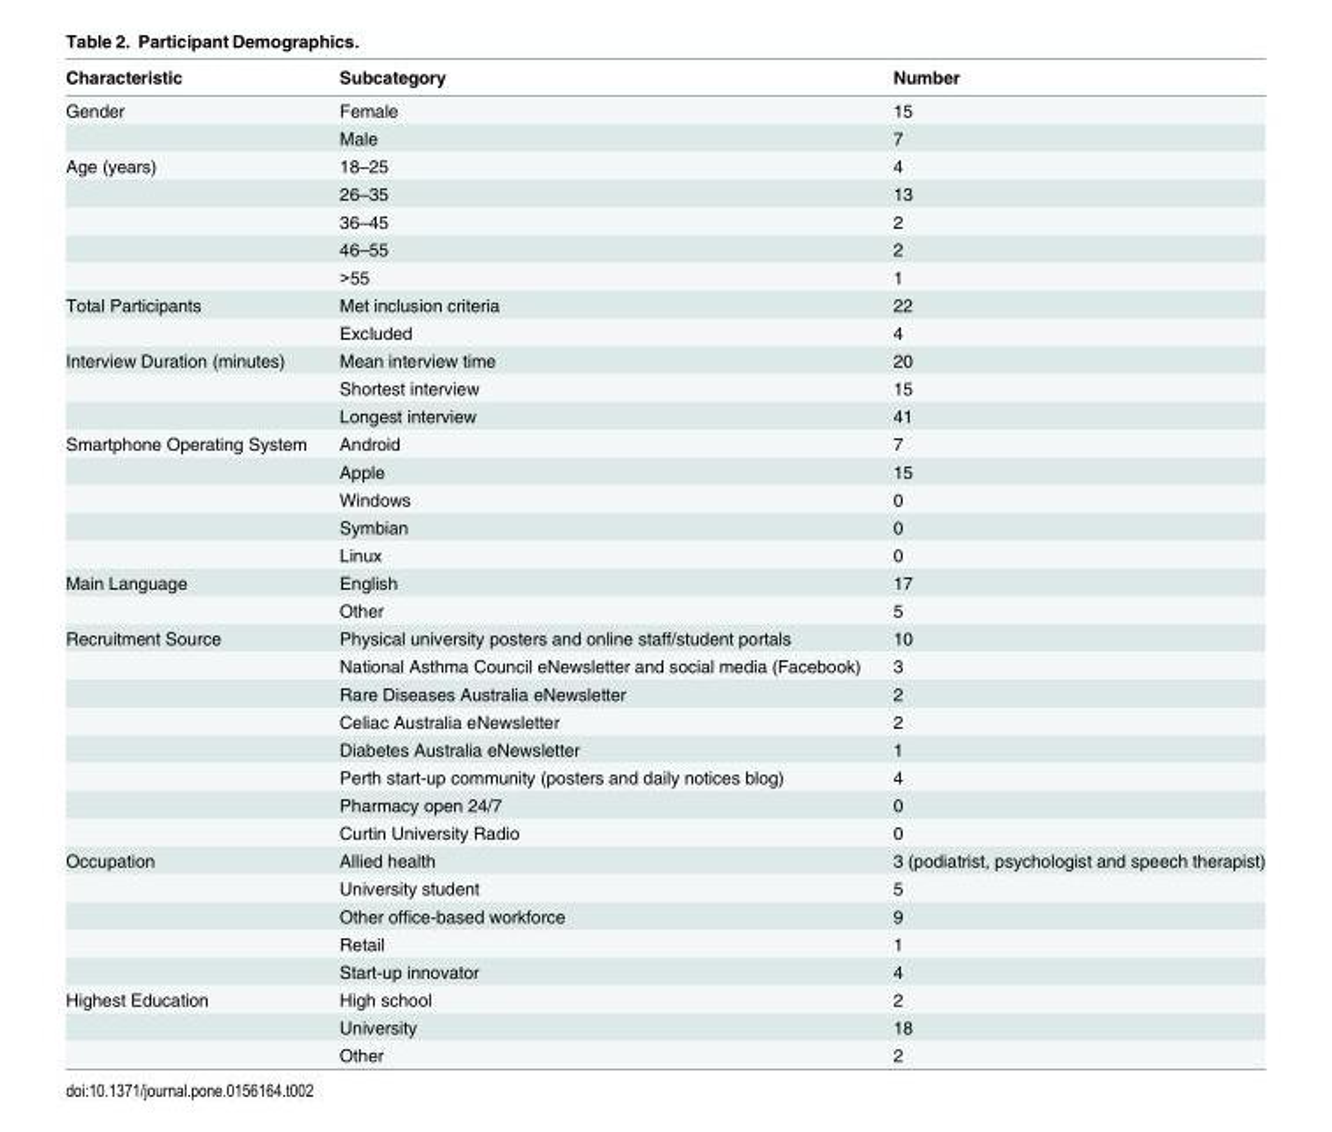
<table><thead><tr><td>Characteristic</td><td>Subcategory</td><td>Number</td></tr></thead><tbody><tr><td rowspan="2">Gender</td><td>Female</td><td>15</td></tr><tr><td>Male</td><td>7</td></tr><tr><td rowspan="5">Age (years)</td><td>18–25</td><td>4</td></tr><tr><td>26–35</td><td>13</td></tr><tr><td>36–45</td><td>2</td></tr><tr><td>46–55</td><td>2</td></tr><tr><td>&gt;55</td><td>1</td></tr><tr><td rowspan="2">Total Participants</td><td>Met inclusion criteria</td><td>22</td></tr><tr><td>Excluded</td><td>4</td></tr><tr><td rowspan="3">Interview Duration (minutes)</td><td>Mean interview time</td><td>20</td></tr><tr><td>Shortest interview</td><td>15</td></tr><tr><td>Longest interview</td><td>41</td></tr><tr><td rowspan="5">Smartphone Operating System</td><td>Android</td><td>7</td></tr><tr><td>Apple</td><td>15</td></tr><tr><td>Windows</td><td>0</td></tr><tr><td>Symbian</td><td>0</td></tr><tr><td>Linux</td><td>0</td></tr><tr><td rowspan="2">Main Language</td><td>English</td><td>17</td></tr><tr><td>Other</td><td>5</td></tr><tr><td rowspan="8">Recruitment Source</td><td>Physical university posters and online staff/student portals</td><td>10</td></tr><tr><td>National Asthma Council eNewsletter and social media (Facebook)</td><td>3</td></tr><tr><td>Rare Diseases Australia eNewsletter</td><td>2</td></tr><tr><td>Celiac Australia eNewsletter</td><td>2</td></tr><tr><td>Diabetes Australia eNewsletter</td><td>1</td></tr><tr><td>Perth start-up community (posters and daily notices blog)</td><td>4</td></tr><tr><td>Pharmacy open 24/7</td><td>0</td></tr><tr><td>Curtin University Radio</td><td>0</td></tr><tr><td rowspan="5">Occupation</td><td>Allied health</td><td>3 (podiatrist, psychologist and speech therapist)</td></tr><tr><td>University student</td><td>5</td></tr><tr><td>Other office-based workforce</td><td>9</td></tr><tr><td>Retail</td><td>1</td></tr><tr><td>Start-up innovator</td><td>4</td></tr><tr><td rowspan="3">Highest Education</td><td>High school</td><td>2</td></tr><tr><td>University</td><td>18</td></tr><tr><td>Other</td><td>2</td></tr></tbody></table>